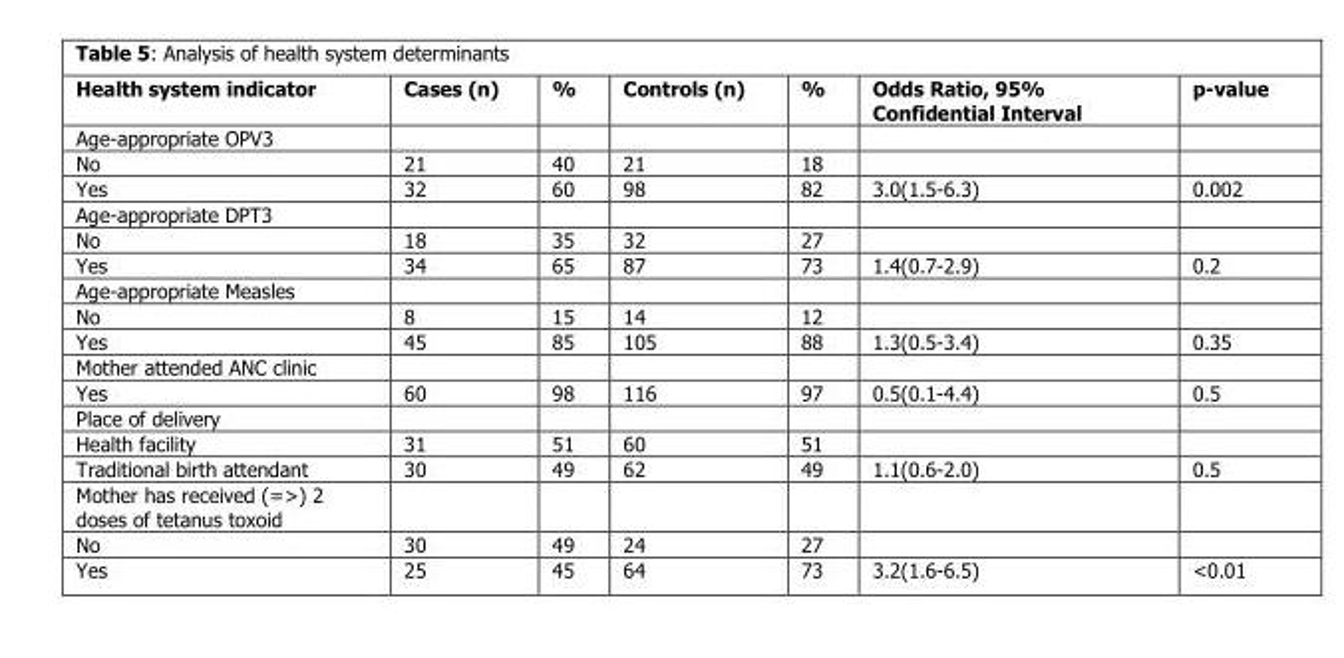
<table><thead><tr><td>Health system indicator</td><td>Cases (n)</td><td>%</td><td>Controls (n)</td><td>%</td><td>Odds Ratio, 95% Confidential Interval</td><td>p-value</td></tr></thead><tbody><tr><td colspan="7">Age-appropriate OPV3</td></tr><tr><td>No</td><td>21</td><td>40</td><td>21</td><td>18</td><td></td><td></td></tr><tr><td>Yes</td><td>32</td><td>60</td><td>98</td><td>82</td><td>3.0(1.5-6.3)</td><td>0.002</td></tr><tr><td colspan="7">Age-appropriate DPT3</td></tr><tr><td>No</td><td>18</td><td>35</td><td>32</td><td>27</td><td></td><td></td></tr><tr><td>Yes</td><td>34</td><td>65</td><td>87</td><td>73</td><td>1.4(0.7-2.9)</td><td>0.2</td></tr><tr><td colspan="7">Age-appropriate Measles</td></tr><tr><td>No</td><td>8</td><td>15</td><td>14</td><td>12</td><td></td><td></td></tr><tr><td>Yes</td><td>45</td><td>85</td><td>105</td><td>88</td><td>1.3(0.5-3.4)</td><td>0.35</td></tr><tr><td colspan="7">Mother attended ANC clinic</td></tr><tr><td>Yes</td><td>60</td><td>98</td><td>116</td><td>97</td><td>0.5(0.1-4.4)</td><td>0.5</td></tr><tr><td colspan="7">Place of delivery</td></tr><tr><td>Health facility</td><td>31</td><td>51</td><td>60</td><td>51</td><td></td><td></td></tr><tr><td>Traditional birth attendant</td><td>30</td><td>49</td><td>62</td><td>49</td><td>1.1(0.6-2.0)</td><td>0.5</td></tr><tr><td colspan="7">Mother has received (=&gt;) 2 doses of tetanus toxoid</td></tr><tr><td>No</td><td>30</td><td>49</td><td>24</td><td>27</td><td></td><td></td></tr><tr><td>Yes</td><td>25</td><td>45</td><td>64</td><td>73</td><td>3.2(1.6-6.5)</td><td>&lt;0.01</td></tr></tbody></table>